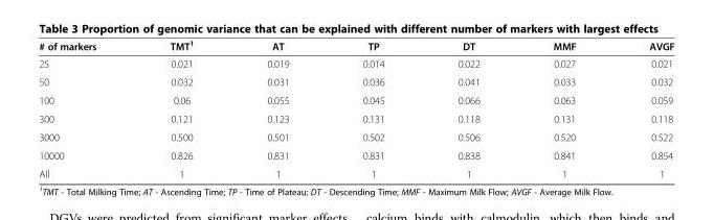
<table><thead><tr><td># of markers</td><td>TMT<sup>1</sup></td><td>AT</td><td>TP</td><td>DT</td><td>MMF</td><td>AVGF</td></tr></thead><tbody><tr><td>25</td><td>0.021</td><td>0.019</td><td>0.014</td><td>0.022</td><td>0.027</td><td>0.021</td></tr><tr><td>50</td><td>0.032</td><td>0.031</td><td>0.036</td><td>0.041</td><td>0.033</td><td>0.032</td></tr><tr><td>100</td><td>0.06</td><td>0.055</td><td>0.045</td><td>0.066</td><td>0.063</td><td>0.059</td></tr><tr><td>300</td><td>0.121</td><td>0.123</td><td>0.131</td><td>0.118</td><td>0.131</td><td>0.118</td></tr><tr><td>3000</td><td>0.500</td><td>0.501</td><td>0.502</td><td>0.506</td><td>0.520</td><td>0.522</td></tr><tr><td>10000</td><td>0.826</td><td>0.831</td><td>0.831</td><td>0.838</td><td>0.841</td><td>0.854</td></tr><tr><td>All</td><td>1</td><td>1</td><td>1</td><td>1</td><td>1</td><td>1</td></tr></tbody></table>